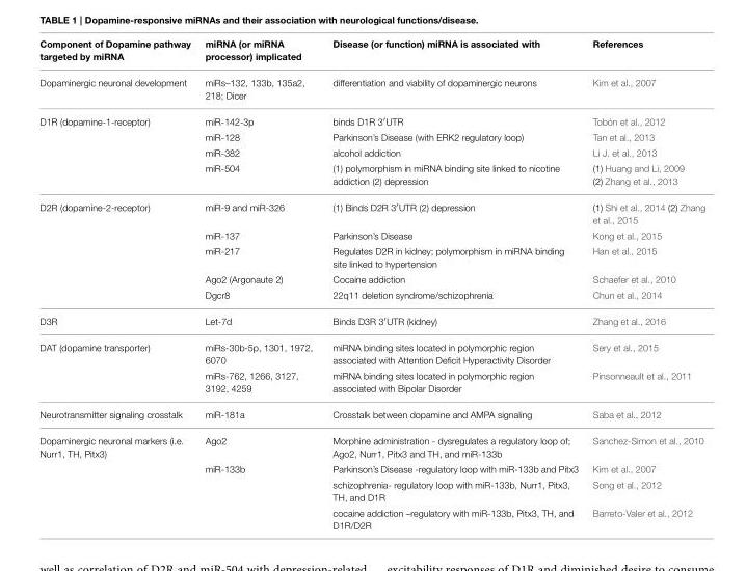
<table><thead><tr><td>Component of Dopamine pathway targeted by miRNA</td><td>miRNA (or miRNA processor) implicated</td><td>Disease (or function) miRNA is associated with</td><td>References</td></tr></thead><tbody><tr><td>Dopaminergic neuronal development</td><td>miRs–132, 133b, 135a2, 218; Dicer</td><td>differentiation and viability of dopaminergic neurons</td><td>Kim et al., 2007</td></tr><tr><td rowspan="4">D1R (dopamine-1-receptor)</td><td>miR-142-3p</td><td>binds D1R 3′UTR</td><td>Tobón et al., 2012</td></tr><tr><td>miR-128</td><td>Parkinson’s Disease (with ERK2 regulatory loop)</td><td>Tan et al., 2013</td></tr><tr><td>miR-382</td><td>alcohol addiction</td><td>Li J. et al., 2013</td></tr><tr><td>miR-504</td><td>(1) polymorphism in miRNA binding site linked to nicotine addiction (2) depression</td><td>(1) Huang and Li, 2009 (2) Zhang et al., 2013</td></tr><tr><td rowspan="5">D2R (dopamine-2-receptor)</td><td>miR-9 and miR-326</td><td>(1) Binds D2R 3′UTR (2) depression</td><td>(1) Shi et al., 2014 (2) Zhang et al., 2015</td></tr><tr><td>miR-137</td><td>Parkinson’s Disease</td><td>Kong et al., 2015</td></tr><tr><td>miR-217</td><td>Regulates D2R in kidney; polymorphism in miRNA binding site linked to hypertension</td><td>Han et al., 2015</td></tr><tr><td>Ago2 (Argonaute 2)</td><td>Cocaine addiction</td><td>Schaefer et al., 2010</td></tr><tr><td>Dgcr8</td><td>22q11 deletion syndrome/schizophrenia</td><td>Chun et al., 2014</td></tr><tr><td>D3R</td><td>Let-7d</td><td>Binds D3R 3′UTR (kidney)</td><td>Zhang et al., 2016</td></tr><tr><td rowspan="2">DAT (dopamine transporter)</td><td>miRs-30b-5p, 1301, 1972, 6070</td><td>miRNA binding sites located in polymorphic region associated with Attention Deficit Hyperactivity Disorder</td><td>Sery et al., 2015</td></tr><tr><td>miRs-762, 1266, 3127, 3192, 4259</td><td>miRNA binding sites located in polymorphic region associated with Bipolar Disorder</td><td>Pinsonneault et al., 2011</td></tr><tr><td>Neurotransmitter signaling crosstalk</td><td>miR-181a</td><td>Crosstalk between dopamine and AMPA signaling</td><td>Saba et al., 2012</td></tr><tr><td rowspan="4">Dopaminergic neuronal markers (i.e. Nurr1, TH, Pitx3)</td><td>Ago2</td><td>Morphine administration - dysregulates a regulatory loop of; Ago2, Nurr1, Pitx3 and TH, and miR-133b</td><td>Sanchez-Simon et al., 2010</td></tr><tr><td>miR-133b</td><td>Parkinson’s Disease -regulatory loop with miR-133b and Pitx3</td><td>Kim et al., 2007</td></tr><tr><td></td><td>schizophrenia- regulatory loop with miR-133b, Nurr1, Pitx3, TH, and D1R</td><td>Song et al., 2012</td></tr><tr><td></td><td>cocaine addiction –regulatory with miR-133b, Pitx3, TH, and D1R/D2R</td><td>Barreto-Valer et al., 2012</td></tr></tbody></table>